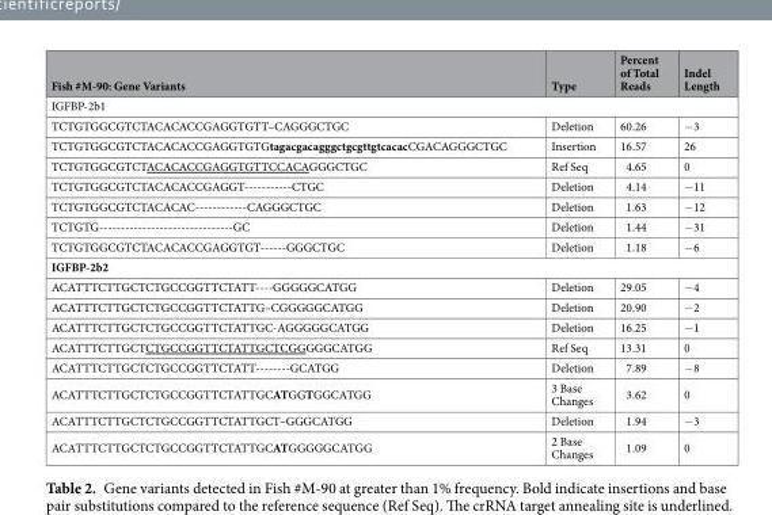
<table><thead><tr><td>Fish #M-90: Gene Variants</td><td>Type</td><td>Percent of Total Reads</td><td>Indel Length</td></tr></thead><tbody><tr><td colspan="4">IGFBP-2b1</td></tr><tr><td>TCTGTGGCGTCTACACACCGAGGTGTT–CAGGGCTGC</td><td>Deletion</td><td>60.26</td><td>−3</td></tr><tr><td>TCTGTGGCGTCTACACACCGAGGTGTGtagacgacagggctgcgttgtcacacCGACAGGGCTGC</td><td>Insertion</td><td>16.57</td><td>26</td></tr><tr><td>TCTGTGGCGTCTACACACCGAGGTGTTCCACAGGGCTGC</td><td>Ref Seq</td><td>4.65</td><td>0</td></tr><tr><td>TCTGTGGCGTCTACACACCGAGGT-----------CTGC</td><td>Deletion</td><td>4.14</td><td>−11</td></tr><tr><td>TCTGTGGCGTCTACACAC------------CAGGGCTGC</td><td>Deletion</td><td>1.63</td><td>−12</td></tr><tr><td>TCTGTG-------------------------------GC</td><td>Deletion</td><td>1.44</td><td>−31</td></tr><tr><td>TCTGTGGCGTCTACACACCGAGGTGT------GGGCTGC</td><td>Deletion</td><td>1.18</td><td>−6</td></tr><tr><td colspan="4">IGFBP-2b2</td></tr><tr><td>ACATTTCTTGCTCTGCCGGTTCTATT----GGGGGCATGG</td><td>Deletion</td><td>29.05</td><td>−4</td></tr><tr><td>ACATTTCTTGCTCTGCCGGTTCTATTG–CGGGGGCATGG</td><td>Deletion</td><td>20.90</td><td>−2</td></tr><tr><td>ACATTTCTTGCTCTGCCGGTTCTATTGC-AGGGGGCATGG</td><td>Deletion</td><td>16.25</td><td>−1</td></tr><tr><td>ACATTTCTTGCTCTGCCGGTTCTATTGCTCGGGGGCATGG</td><td>Ref Seq</td><td>13.31</td><td>0</td></tr><tr><td>ACATTTCTTGCTCTGCCGGTTCTATT--------GCATGG</td><td>Deletion</td><td>7.89</td><td>−8</td></tr><tr><td>ACATTTCTTGCTCTGCCGGTTCTATTGCATGGTGGCATGG</td><td>3 Base Changes</td><td>3.62</td><td>0</td></tr><tr><td>ACATTTCTTGCTCTGCCGGTTCTATTGCT–GGGCATGG</td><td>Deletion</td><td>1.94</td><td>−3</td></tr><tr><td>ACATTTCTTGCTCTGCCGGTTCTATTGCATGGGGGCATGG</td><td>2 Base Changes</td><td>1.09</td><td>0</td></tr></tbody></table>